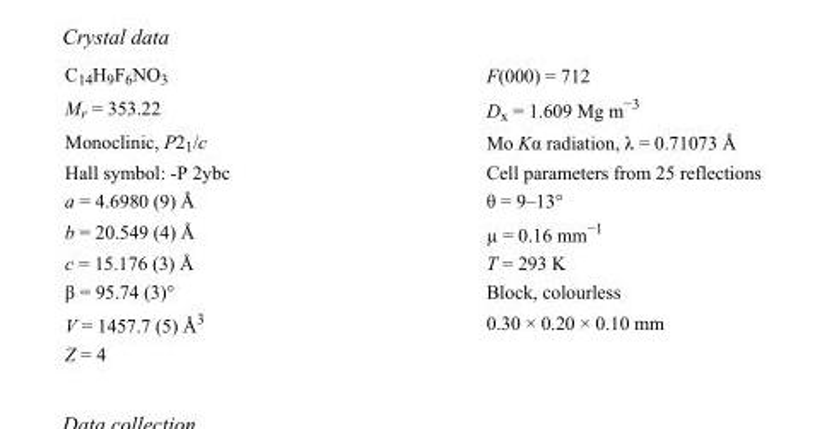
<table><tbody><tr><td>C<sub>14</sub>H<sub>9</sub>F<sub>6</sub>NO<sub>3</sub></td><td>F(000) = 712</td></tr><tr><td>M<sub>r</sub> = 353.22</td><td>D<sub>x</sub> = 1.609 Mg m<sup>−3</sup></td></tr><tr><td>Monoclinic, P2<sub>1</sub>/c</td><td>Mo Kα radiation, λ = 0.71073 Å</td></tr><tr><td>Hall symbol: -P 2ybc</td><td>Cell parameters from 25 reflections</td></tr><tr><td>a = 4.6980 (9) Å</td><td>θ = 9–13°</td></tr><tr><td>b = 20.549 (4) Å</td><td>µ = 0.16 mm<sup>−1</sup></td></tr><tr><td>c = 15.176 (3) Å</td><td>T = 293 K</td></tr><tr><td>β = 95.74 (3)°</td><td>Block, colourless</td></tr><tr><td>V = 1457.7 (5) Å<sup>3</sup></td><td>0.30 × 0.20 × 0.10 mm</td></tr><tr><td>Z = 4</td><td></td></tr></tbody></table>